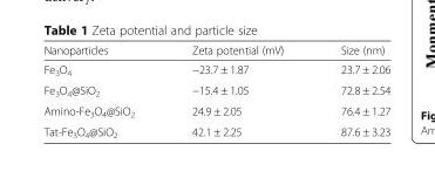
<table><thead><tr><td>Nanoparticles</td><td>Zeta potential (mV)</td><td>Size (nm)</td></tr></thead><tbody><tr><td>Fe<sub>3</sub>O<sub>4</sub></td><td>−23.7 ± 1.87</td><td>23.7 ± 2.06</td></tr><tr><td>Fe<sub>3</sub>O<sub>4</sub>@SiO<sub>2</sub></td><td>−15.4 ± 1.05</td><td>72.8 ± 2.54</td></tr><tr><td>Amino-Fe<sub>3</sub>O<sub>4</sub>@SiO<sub>2</sub></td><td>24.9 ± 2.05</td><td>76.4 ± 1.27</td></tr><tr><td>Tat-Fe<sub>3</sub>O<sub>4</sub>@SiO<sub>2</sub></td><td>42.1 ± 2.25</td><td>87.6 ± 3.23</td></tr></tbody></table>